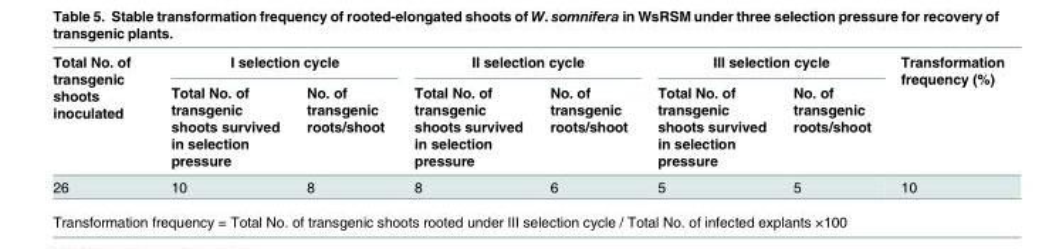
<table><thead><tr><td rowspan="2">Total No. of transgenic shoots inoculated</td><td colspan="2">I selection cycle</td><td colspan="2">II selection cycle</td><td colspan="2">III selection cycle</td><td rowspan="2">Transformation frequency (%)</td></tr><tr><td>Total No. of transgenic shoots survived in selection pressure</td><td>No. of transgenic roots/shoot</td><td>Total No. of transgenic shoots survived in selection pressure</td><td>No. of transgenic roots/shoot</td><td>Total No. of transgenic shoots survived in selection pressure</td><td>No. of transgenic roots/shoot</td></tr></thead><tbody><tr><td>26</td><td>10</td><td>8</td><td>8</td><td>6</td><td>5</td><td>5</td><td>10</td></tr></tbody></table>